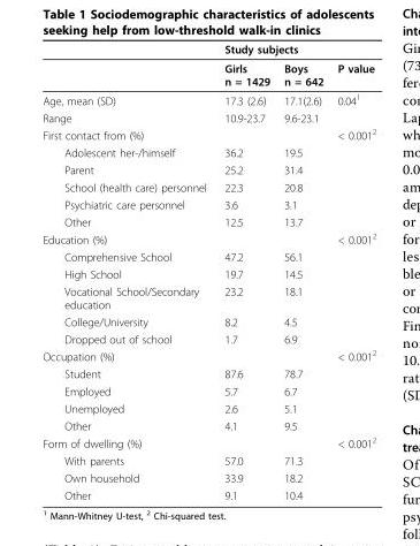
<table><thead><tr><td rowspan="2"></td><td colspan="3">Study subjects</td></tr><tr><td>Girls n = 1429</td><td>Boys n = 642</td><td>P value</td></tr></thead><tbody><tr><td>Age, mean (SD)</td><td>17.3 (2.6)</td><td>17.1(2.6)</td><td>0.04<sup>1</sup></td></tr><tr><td>Range</td><td>10.9-23.7</td><td>9.6-23.1</td><td></td></tr><tr><td>First contact from (%)</td><td></td><td></td><td>&lt; 0.001<sup>2</sup></td></tr><tr><td>Adolescent her-/himself</td><td>36.2</td><td>19.5</td><td></td></tr><tr><td>Parent</td><td>25.2</td><td>31.4</td><td></td></tr><tr><td>School (health care) personnel</td><td>22.3</td><td>20.8</td><td></td></tr><tr><td>Psychiatric care personnel</td><td>3.6</td><td>3.1</td><td></td></tr><tr><td>Other</td><td>12.5</td><td>13.7</td><td></td></tr><tr><td>Education (%)</td><td></td><td></td><td>&lt; 0.001<sup>2</sup></td></tr><tr><td>Comprehensive School</td><td>47.2</td><td>56.1</td><td></td></tr><tr><td>High School</td><td>19.7</td><td>14.5</td><td></td></tr><tr><td>Vocational School/Secondary education</td><td>23.2</td><td>18.1</td><td></td></tr><tr><td>College/University</td><td>8.2</td><td>4.5</td><td></td></tr><tr><td>Dropped out of school</td><td>1.7</td><td>6.9</td><td></td></tr><tr><td>Occupation (%)</td><td></td><td></td><td>&lt; 0.001<sup>2</sup></td></tr><tr><td>Student</td><td>87.6</td><td>78.7</td><td></td></tr><tr><td>Employed</td><td>5.7</td><td>6.7</td><td></td></tr><tr><td>Unemployed</td><td>2.6</td><td>5.1</td><td></td></tr><tr><td>Other</td><td>4.1</td><td>9.5</td><td></td></tr><tr><td>Form of dwelling (%)</td><td></td><td></td><td>&lt; 0.001<sup>2</sup></td></tr><tr><td>With parents</td><td>57.0</td><td>71.3</td><td></td></tr><tr><td>Own household</td><td>33.9</td><td>18.2</td><td></td></tr><tr><td>Other</td><td>9.1</td><td>10.4</td><td></td></tr></tbody></table>